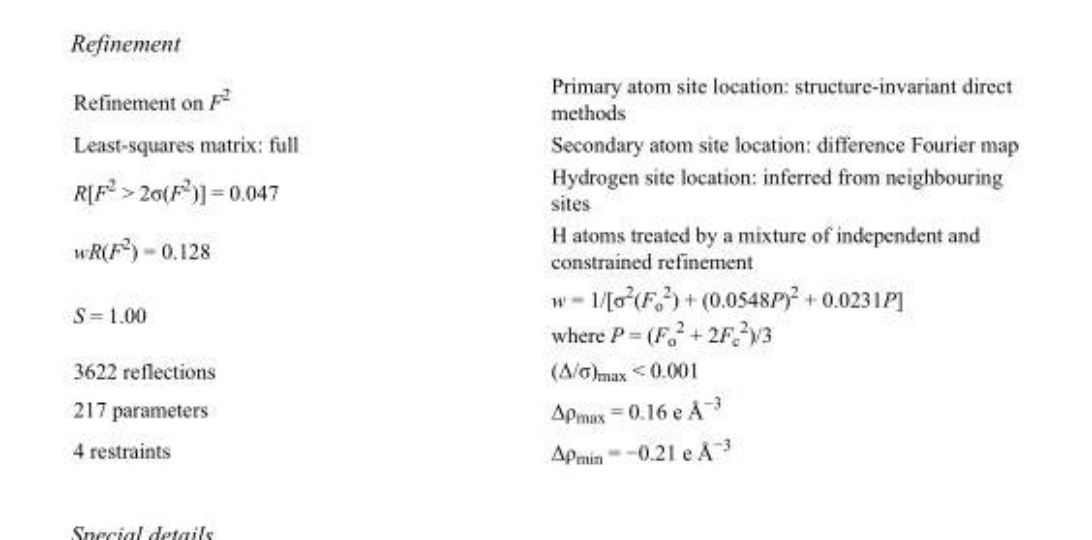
<table><tbody><tr><td>Refinement on F<sup>2</sup></td><td>Primary atom site location: structure-invariant direct methods</td></tr><tr><td>Least-squares matrix: full</td><td>Secondary atom site location: difference Fourier map</td></tr><tr><td>R[F<sup>2</sup> &gt; 2σ(F<sup>2</sup>)] = 0.047</td><td>Hydrogen site location: inferred from neighbouring sites</td></tr><tr><td>wR(F<sup>2</sup>) = 0.128</td><td>H atoms treated by a mixture of independent and constrained refinement</td></tr><tr><td>S = 1.00</td><td>w = 1/[σ<sup>2</sup>(F<sub>o</sub> <sup>2</sup>) + (0.0548P)<sup>2</sup> + 0.0231P] where P = (F<sub>o</sub> <sup>2</sup> + 2F<sub>c</sub> <sup>2</sup>)/3</td></tr><tr><td>3622 reflections</td><td>(Δ/σ)<sub>max</sub> &lt; 0.001</td></tr><tr><td>217 parameters</td><td>Δρ<sub>max</sub> = 0.16 e Å<sup>−3</sup></td></tr><tr><td>4 restraints</td><td>Δρ<sub>min</sub> = −0.21 e Å<sup>−3</sup></td></tr></tbody></table>